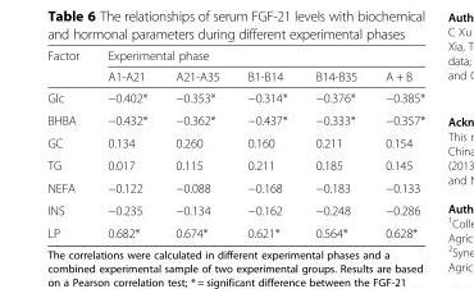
<table><thead><tr><td rowspan="2">Factor</td><td colspan="5">Experimental phase</td></tr><tr><td>A1-A21</td><td>A21-A35</td><td>B1-B14</td><td>B14-B35</td><td>A + B</td></tr></thead><tbody><tr><td>Glc</td><td>−0.402*</td><td>−0.353*</td><td>−0.314*</td><td>−0.376*</td><td>−0.385*</td></tr><tr><td>BHBA</td><td>−0.432*</td><td>−0.362*</td><td>−0.437*</td><td>−0.333*</td><td>−0.357*</td></tr><tr><td>GC</td><td>0.134</td><td>0.260</td><td>0.160</td><td>0.211</td><td>0.154</td></tr><tr><td>TG</td><td>0.017</td><td>0.115</td><td>0.211</td><td>0.185</td><td>0.145</td></tr><tr><td>NEFA</td><td>−0.122</td><td>−0.088</td><td>−0.168</td><td>−0.183</td><td>−0.133</td></tr><tr><td>INS</td><td>−0.235</td><td>−0.134</td><td>−0.162</td><td>−0.248</td><td>−0.286</td></tr><tr><td>LP</td><td>0.682*</td><td>0.674*</td><td>0.621*</td><td>0.564*</td><td>0.628*</td></tr></tbody></table>